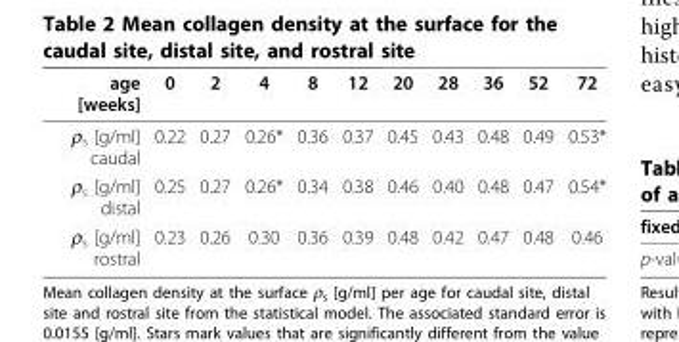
<table><thead><tr><td>age [weeks]</td><td>0</td><td>2</td><td>4</td><td>8</td><td>12</td><td>20</td><td>28</td><td>36</td><td>52</td><td>72</td></tr></thead><tbody><tr><td>ρ<sub>s</sub> [g/ml] caudal</td><td>0.22</td><td>0.27</td><td>0.26*</td><td>0.36</td><td>0.37</td><td>0.45</td><td>0.43</td><td>0.48</td><td>0.49</td><td>0.53*</td></tr><tr><td>ρ<sub>s</sub> [g/ml] distal</td><td>0.25</td><td>0.27</td><td>0.26*</td><td>0.34</td><td>0.38</td><td>0.46</td><td>0.40</td><td>0.48</td><td>0.47</td><td>0.54*</td></tr><tr><td>ρ<sub>s</sub> [g/ml] rostral</td><td>0.23</td><td>0.26</td><td>0.30</td><td>0.36</td><td>0.39</td><td>0.48</td><td>0.42</td><td>0.47</td><td>0.48</td><td>0.46</td></tr></tbody></table>